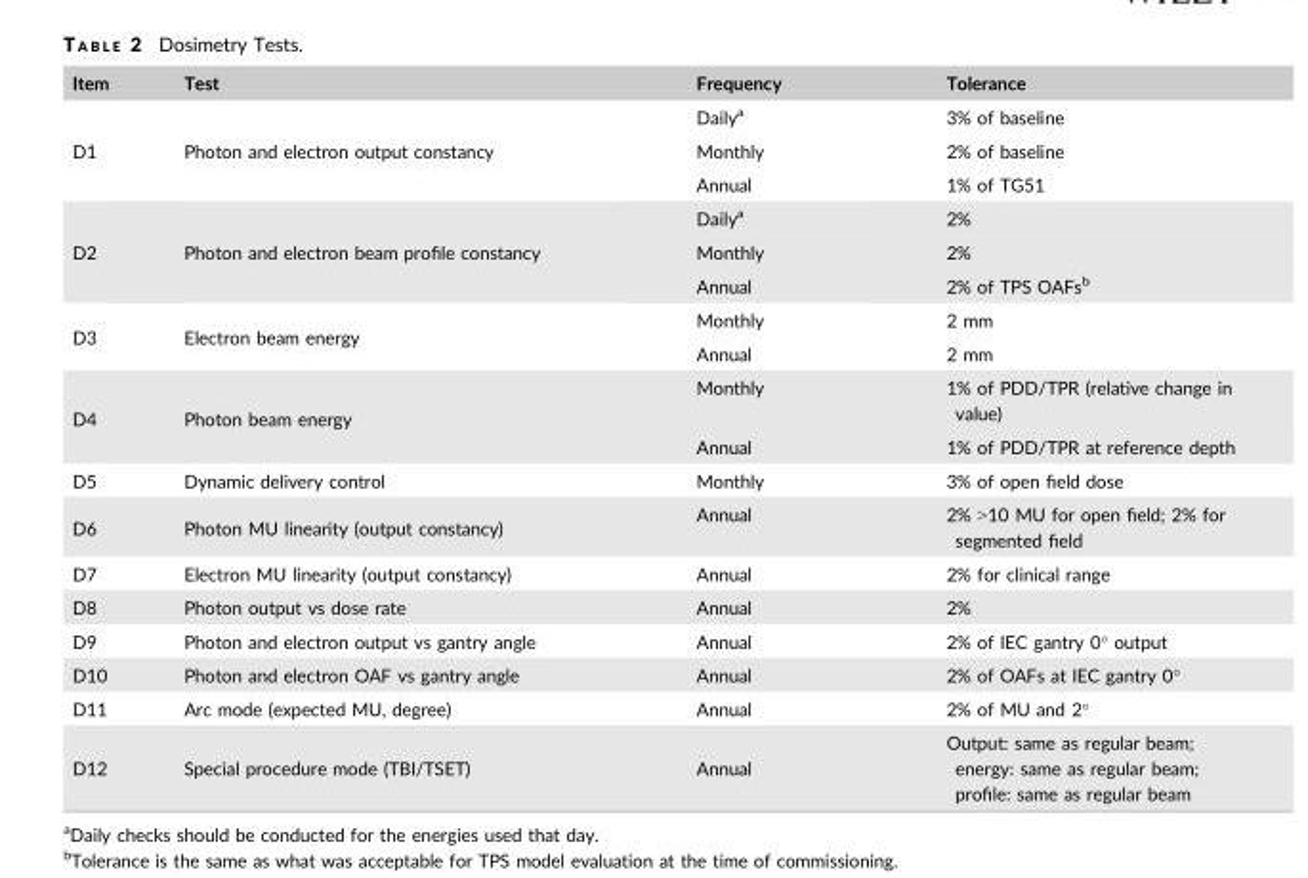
<table><thead><tr><td>Item</td><td>Test</td><td>Frequency</td><td>Tolerance</td></tr></thead><tbody><tr><td rowspan="3">D1</td><td rowspan="3">Photon and electron output constancy</td><td>Daily<sup>a</sup></td><td>3% of baseline</td></tr><tr><td>Monthly</td><td>2% of baseline</td></tr><tr><td>Annual</td><td>1% of TG51</td></tr><tr><td rowspan="3">D2</td><td rowspan="3">Photon and electron beam profile constancy</td><td>Daily<sup>a</sup></td><td>2%</td></tr><tr><td>Monthly</td><td>2%</td></tr><tr><td>Annual</td><td>2% of TPS OAFs<sup>b</sup></td></tr><tr><td rowspan="2">D3</td><td rowspan="2">Electron beam energy</td><td>Monthly</td><td>2 mm</td></tr><tr><td>Annual</td><td>2 mm</td></tr><tr><td rowspan="2">D4</td><td>Photon beam energy</td><td>Monthly</td><td>1% of PDD/TPR (relative change in value)</td></tr><tr><td></td><td>Annual</td><td>1% of PDD/TPR at reference depth</td></tr><tr><td>D5</td><td>Dynamic delivery control</td><td>Monthly</td><td>3% of open field dose</td></tr><tr><td>D6</td><td>Photon MU linearity (output constancy)</td><td>Annual</td><td>2% &gt;10 MU for open field; 2% for segmented field</td></tr><tr><td>D7</td><td>Electron MU linearity (output constancy)</td><td>Annual</td><td>2% for clinical range</td></tr><tr><td>D8</td><td>Photon output vs dose rate</td><td>Annual</td><td>2%</td></tr><tr><td>D9</td><td>Photon and electron output vs gantry angle</td><td>Annual</td><td>2% of IEC gantry 0° output</td></tr><tr><td>D10</td><td>Photon and electron OAF vs gantry angle</td><td>Annual</td><td>2% of OAFs at IEC gantry 0°</td></tr><tr><td>D11</td><td>Arc mode (expected MU, degree)</td><td>Annual</td><td>2% of MU and 2°</td></tr><tr><td>D12</td><td>Special procedure mode (TBI/TSET)</td><td>Annual</td><td>Output: same as regular beam; energy: same as regular beam; profile: same as regular beam</td></tr></tbody></table>